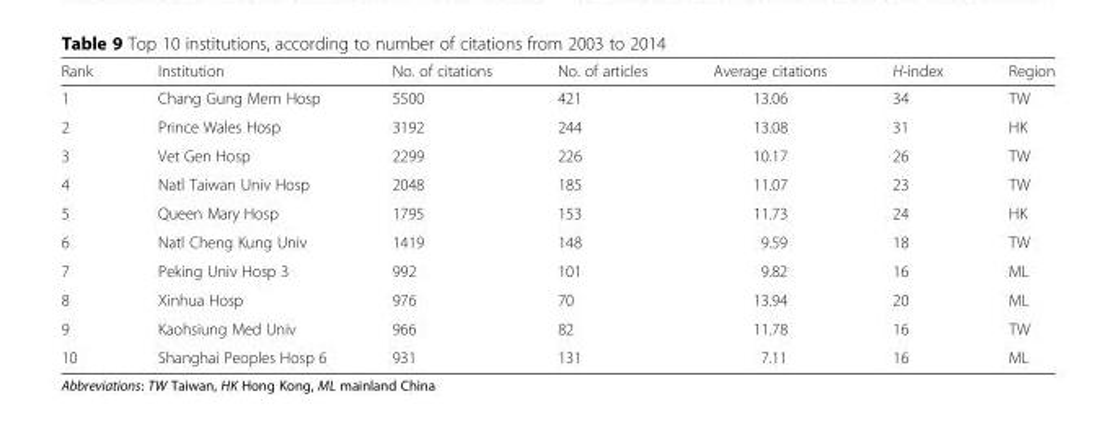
<table><thead><tr><td>Rank</td><td>Institution</td><td>No. of citations</td><td>No. of articles</td><td>Average citations</td><td>H-index</td><td>Region</td></tr></thead><tbody><tr><td>1</td><td>Chang Gung Mem Hosp</td><td>5500</td><td>421</td><td>13.06</td><td>34</td><td>TW</td></tr><tr><td>2</td><td>Prince Wales Hosp</td><td>3192</td><td>244</td><td>13.08</td><td>31</td><td>HK</td></tr><tr><td>3</td><td>Vet Gen Hosp</td><td>2299</td><td>226</td><td>10.17</td><td>26</td><td>TW</td></tr><tr><td>4</td><td>Natl Taiwan Univ Hosp</td><td>2048</td><td>185</td><td>11.07</td><td>23</td><td>TW</td></tr><tr><td>5</td><td>Queen Mary Hosp</td><td>1795</td><td>153</td><td>11.73</td><td>24</td><td>HK</td></tr><tr><td>6</td><td>Natl Cheng Kung Univ</td><td>1419</td><td>148</td><td>9.59</td><td>18</td><td>TW</td></tr><tr><td>7</td><td>Peking Univ Hosp 3</td><td>992</td><td>101</td><td>9.82</td><td>16</td><td>ML</td></tr><tr><td>8</td><td>Xinhua Hosp</td><td>976</td><td>70</td><td>13.94</td><td>20</td><td>ML</td></tr><tr><td>9</td><td>Kaohsiung Med Univ</td><td>966</td><td>82</td><td>11.78</td><td>16</td><td>TW</td></tr><tr><td>10</td><td>Shanghai Peoples Hosp 6</td><td>931</td><td>131</td><td>7.11</td><td>16</td><td>ML</td></tr></tbody></table>